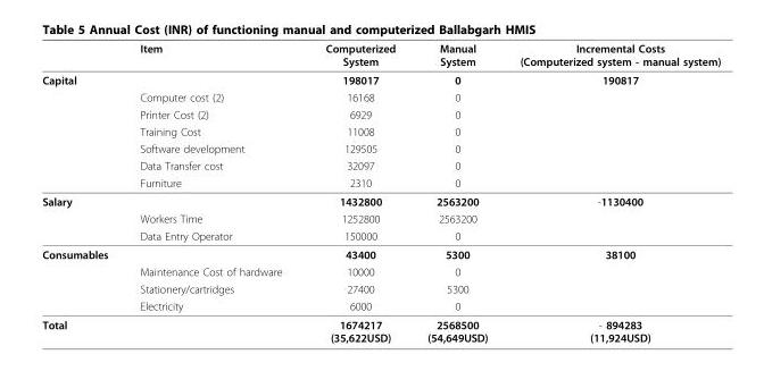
<table><thead><tr><td></td><td>Item</td><td>Computerized System</td><td>Manual System</td><td>Incremental Costs (Computerized system - manual system)</td></tr></thead><tbody><tr><td rowspan="7">Capital</td><td></td><td>198017</td><td>0</td><td>190817</td></tr><tr><td>Computer cost (2)</td><td>16168</td><td>0</td><td></td></tr><tr><td>Printer Cost (2)</td><td>6929</td><td>0</td><td></td></tr><tr><td>Training Cost</td><td>11008</td><td>0</td><td></td></tr><tr><td>Software development</td><td>129505</td><td>0</td><td></td></tr><tr><td>Data Transfer cost</td><td>32097</td><td>0</td><td></td></tr><tr><td>Furniture</td><td>2310</td><td>0</td><td></td></tr><tr><td rowspan="3">Salary</td><td></td><td>1432800</td><td>2563200</td><td>-1130400</td></tr><tr><td>Workers Time</td><td>1252800</td><td>2563200</td><td></td></tr><tr><td>Data Entry Operator</td><td>150000</td><td>0</td><td></td></tr><tr><td rowspan="4">Consumables</td><td></td><td>43400</td><td>5300</td><td>38100</td></tr><tr><td>Maintenance Cost of hardware</td><td>10000</td><td>0</td><td></td></tr><tr><td>Stationery/cartridges</td><td>27400</td><td>5300</td><td></td></tr><tr><td>Electricity</td><td>6000</td><td>0</td><td></td></tr><tr><td>Total</td><td></td><td>1674217 (35,622USD)</td><td>2568500 (54,649USD)</td><td>- 894283 (11,924USD)</td></tr></tbody></table>